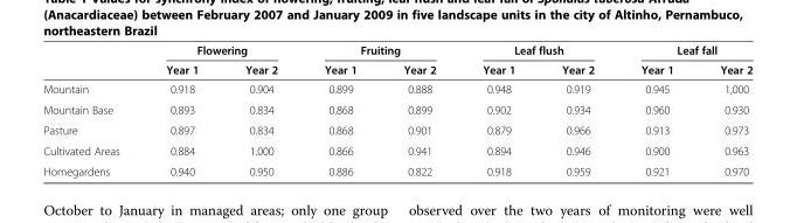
<table><thead><tr><td rowspan="2"></td><td colspan="2">Flowering</td><td colspan="2">Fruiting</td><td colspan="2">Leaf flush</td><td colspan="2">Leaf fall</td></tr><tr><td>Year 1</td><td>Year 2</td><td>Year 1</td><td>Year 2</td><td>Year 1</td><td>Year 2</td><td>Year 1</td><td>Year 2</td></tr></thead><tbody><tr><td>Mountain</td><td>0.918</td><td>0.904</td><td>0.899</td><td>0.888</td><td>0.948</td><td>0.919</td><td>0.945</td><td>1,000</td></tr><tr><td>Mountain Base</td><td>0.893</td><td>0.834</td><td>0.868</td><td>0.899</td><td>0.902</td><td>0.934</td><td>0.960</td><td>0.930</td></tr><tr><td>Pasture</td><td>0.897</td><td>0.834</td><td>0.868</td><td>0.901</td><td>0.879</td><td>0.966</td><td>0.913</td><td>0.973</td></tr><tr><td>Cultivated Areas</td><td>0.884</td><td>1.000</td><td>0.866</td><td>0.941</td><td>0.894</td><td>0.946</td><td>0.900</td><td>0.963</td></tr><tr><td>Homegardens</td><td>0.940</td><td>0.950</td><td>0.886</td><td>0.822</td><td>0.918</td><td>0.959</td><td>0.921</td><td>0.970</td></tr></tbody></table>